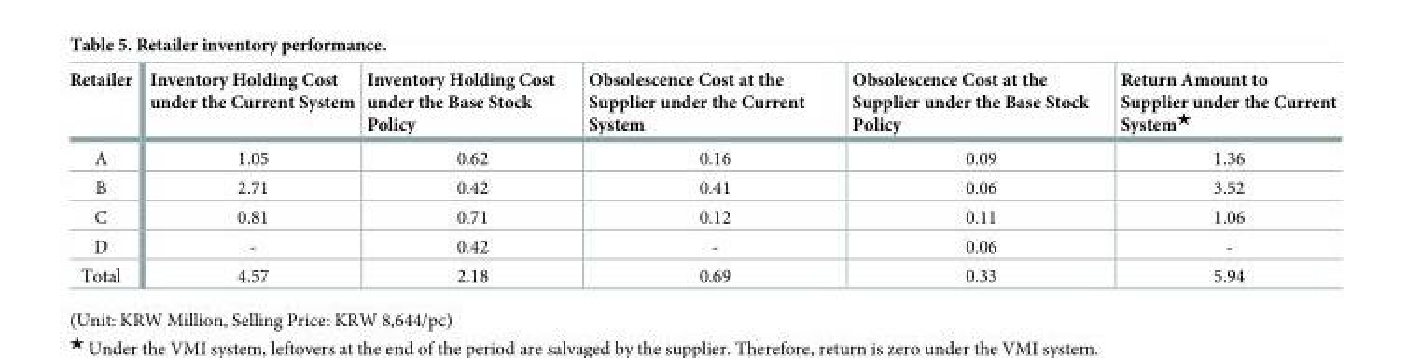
<table><thead><tr><td>Retailer</td><td>Inventory Holding Cost under the Current System</td><td>Inventory Holding Cost under the Base Stock Policy</td><td>Obsolescence Cost at the Supplier under the Current System</td><td>Obsolescence Cost at the Supplier under the Base Stock Policy</td><td>Return Amount to Supplier under the Current System<sup>★</sup></td></tr></thead><tbody><tr><td>A</td><td>1.05</td><td>0.62</td><td>0.16</td><td>0.09</td><td>1.36</td></tr><tr><td>B</td><td>2.71</td><td>0.42</td><td>0.41</td><td>0.06</td><td>3.52</td></tr><tr><td>C</td><td>0.81</td><td>0.71</td><td>0.12</td><td>0.11</td><td>1.06</td></tr><tr><td>D</td><td>-</td><td>0.42</td><td>-</td><td>0.06</td><td>-</td></tr><tr><td>Total</td><td>4.57</td><td>2.18</td><td>0.69</td><td>0.33</td><td>5.94</td></tr></tbody></table>